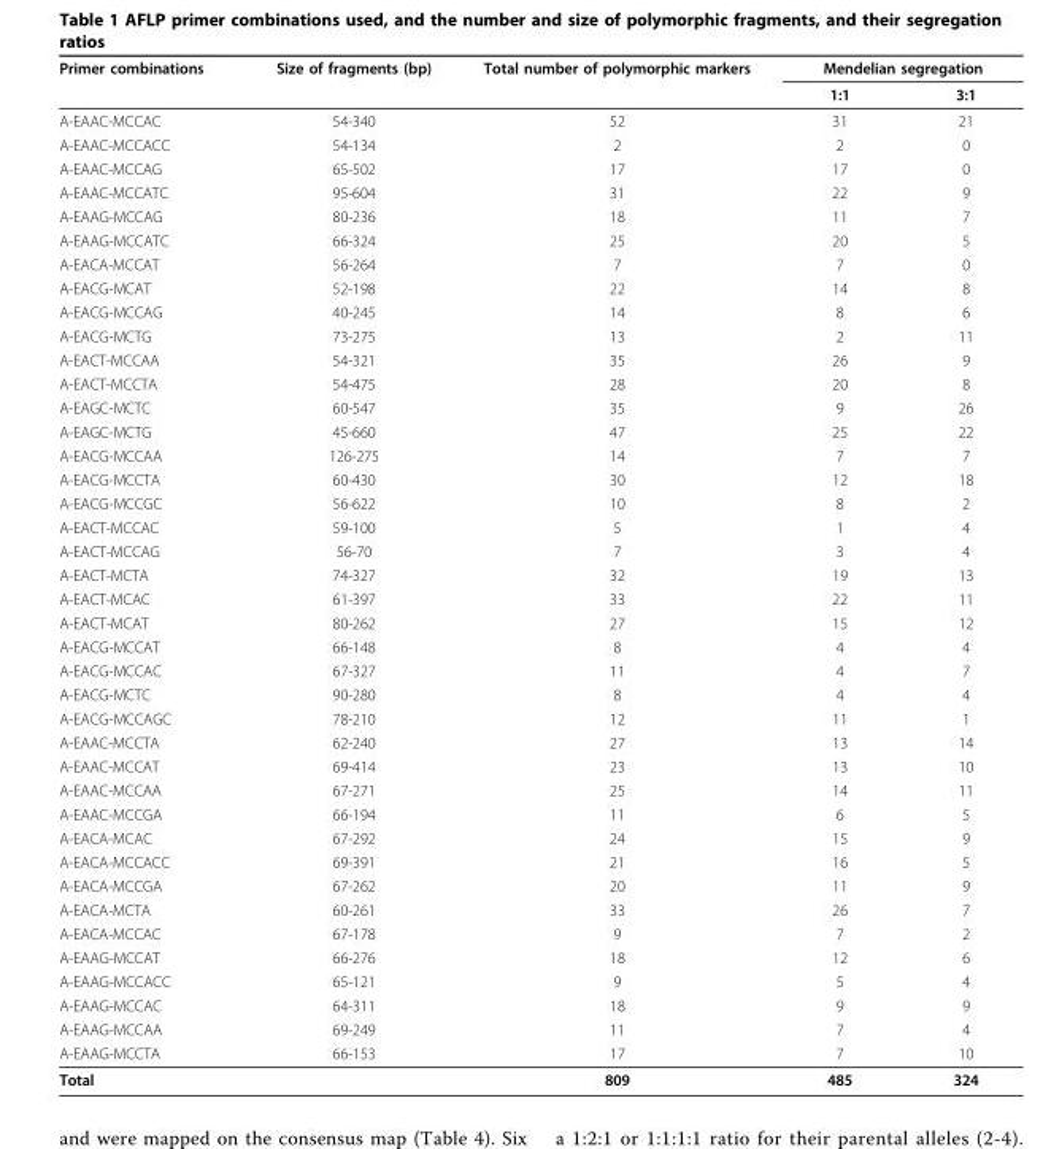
<table><thead><tr><td rowspan="2">Primer combinations</td><td rowspan="2">Size of fragments (bp)</td><td rowspan="2">Total number of polymorphic markers</td><td colspan="2">Mendelian segregation</td></tr><tr><td>1:1</td><td>3:1</td></tr></thead><tbody><tr><td>A-EAAC-MCCAC</td><td>54-340</td><td>52</td><td>31</td><td>21</td></tr><tr><td>A-EAAC-MCCACC</td><td>54-134</td><td>2</td><td>2</td><td>0</td></tr><tr><td>A-EAAC-MCCAG</td><td>65-502</td><td>17</td><td>17</td><td>0</td></tr><tr><td>A-EAAC-MCCATC</td><td>95-604</td><td>31</td><td>22</td><td>9</td></tr><tr><td>A-EAAG-MCCAG</td><td>80-236</td><td>18</td><td>11</td><td>7</td></tr><tr><td>A-EAAG-MCCATC</td><td>66-324</td><td>25</td><td>20</td><td>5</td></tr><tr><td>A-EACA-MCCAT</td><td>56-264</td><td>7</td><td>7</td><td>0</td></tr><tr><td>A-EACG-MCAT</td><td>52-198</td><td>22</td><td>14</td><td>8</td></tr><tr><td>A-EACG-MCCAG</td><td>40-245</td><td>14</td><td>8</td><td>6</td></tr><tr><td>A-EACG-MCTG</td><td>73-275</td><td>13</td><td>2</td><td>11</td></tr><tr><td>A-EACT-MCCAA</td><td>54-321</td><td>35</td><td>26</td><td>9</td></tr><tr><td>A-EACT-MCCTA</td><td>54-475</td><td>28</td><td>20</td><td>8</td></tr><tr><td>A-EAGC-MCTC</td><td>60-547</td><td>35</td><td>9</td><td>26</td></tr><tr><td>A-EAGC-MCTG</td><td>45-660</td><td>47</td><td>25</td><td>22</td></tr><tr><td>A-EACG-MCCAA</td><td>126-275</td><td>14</td><td>7</td><td>7</td></tr><tr><td>A-EACG-MCCTA</td><td>60-430</td><td>30</td><td>12</td><td>18</td></tr><tr><td>A-EACG-MCCGC</td><td>56-622</td><td>10</td><td>8</td><td>2</td></tr><tr><td>A-EACT-MCCAC</td><td>59-100</td><td>5</td><td>1</td><td>4</td></tr><tr><td>A-EACT-MCCAG</td><td>56-70</td><td>7</td><td>3</td><td>4</td></tr><tr><td>A-EACT-MCTA</td><td>74-327</td><td>32</td><td>19</td><td>13</td></tr><tr><td>A-EACT-MCAC</td><td>61-397</td><td>33</td><td>22</td><td>11</td></tr><tr><td>A-EACT-MCAT</td><td>80-262</td><td>27</td><td>15</td><td>12</td></tr><tr><td>A-EACG-MCCAT</td><td>66-148</td><td>8</td><td>4</td><td>4</td></tr><tr><td>A-EACG-MCCAC</td><td>67-327</td><td>11</td><td>4</td><td>7</td></tr><tr><td>A-EACG-MCTC</td><td>90-280</td><td>8</td><td>4</td><td>4</td></tr><tr><td>A-EACG-MCCAGC</td><td>78-210</td><td>12</td><td>11</td><td>1</td></tr><tr><td>A-EAAC-MCCTA</td><td>62-240</td><td>27</td><td>13</td><td>14</td></tr><tr><td>A-EAAC-MCCAT</td><td>69-414</td><td>23</td><td>13</td><td>10</td></tr><tr><td>A-EAAC-MCCAA</td><td>67-271</td><td>25</td><td>14</td><td>11</td></tr><tr><td>A-EAAC-MCCGA</td><td>66-194</td><td>11</td><td>6</td><td>5</td></tr><tr><td>A-EACA-MCAC</td><td>67-292</td><td>24</td><td>15</td><td>9</td></tr><tr><td>A-EACA-MCCACC</td><td>69-391</td><td>21</td><td>16</td><td>5</td></tr><tr><td>A-EACA-MCCGA</td><td>67-262</td><td>20</td><td>11</td><td>9</td></tr><tr><td>A-EACA-MCTA</td><td>60-261</td><td>33</td><td>26</td><td>7</td></tr><tr><td>A-EACA-MCCAC</td><td>67-178</td><td>9</td><td>7</td><td>2</td></tr><tr><td>A-EAAG-MCCAT</td><td>66-276</td><td>18</td><td>12</td><td>6</td></tr><tr><td>A-EAAG-MCCACC</td><td>65-121</td><td>9</td><td>5</td><td>4</td></tr><tr><td>A-EAAG-MCCAC</td><td>64-311</td><td>18</td><td>9</td><td>9</td></tr><tr><td>A-EAAG-MCCAA</td><td>69-249</td><td>11</td><td>7</td><td>4</td></tr><tr><td>A-EAAG-MCCTA</td><td>66-153</td><td>17</td><td>7</td><td>10</td></tr><tr><td>Total</td><td></td><td>809</td><td>485</td><td>324</td></tr></tbody></table>